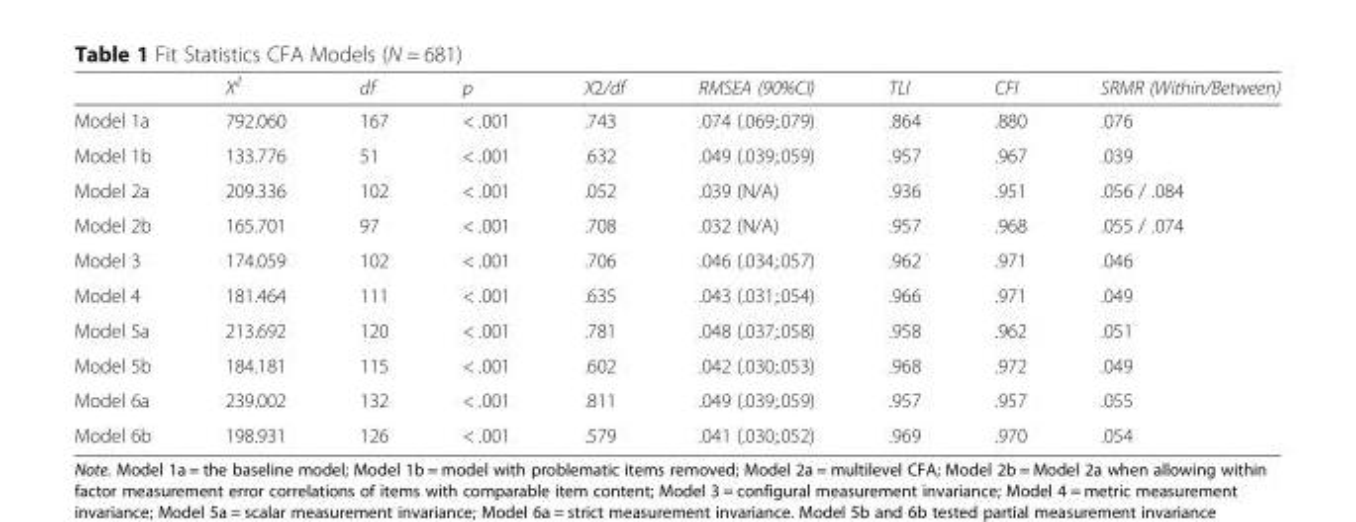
<table><thead><tr><td></td><td>X<sup>2</sup></td><td>df</td><td>p</td><td>X2/df</td><td>RMSEA (90%CI)</td><td>TLI</td><td>CFI</td><td>SRMR (Within/Between)</td></tr></thead><tbody><tr><td>Model 1a</td><td>792.060</td><td>167</td><td>&lt; .001</td><td>.743</td><td>.074 (.069;.079)</td><td>.864</td><td>.880</td><td>.076</td></tr><tr><td>Model 1b</td><td>133.776</td><td>51</td><td>&lt; .001</td><td>.632</td><td>.049 (.039;.059)</td><td>.957</td><td>.967</td><td>.039</td></tr><tr><td>Model 2a</td><td>209.336</td><td>102</td><td>&lt; .001</td><td>.052</td><td>.039 (N/A)</td><td>.936</td><td>.951</td><td>.056 / .084</td></tr><tr><td>Model 2b</td><td>165.701</td><td>97</td><td>&lt; .001</td><td>.708</td><td>.032 (N/A)</td><td>.957</td><td>.968</td><td>.055 / .074</td></tr><tr><td>Model 3</td><td>174.059</td><td>102</td><td>&lt; .001</td><td>.706</td><td>.046 (.034;.057)</td><td>.962</td><td>.971</td><td>.046</td></tr><tr><td>Model 4</td><td>181.464</td><td>111</td><td>&lt; .001</td><td>.635</td><td>.043 (.031;.054)</td><td>.966</td><td>.971</td><td>.049</td></tr><tr><td>Model 5a</td><td>213.692</td><td>120</td><td>&lt; .001</td><td>.781</td><td>.048 (.037;.058)</td><td>.958</td><td>.962</td><td>.051</td></tr><tr><td>Model 5b</td><td>184.181</td><td>115</td><td>&lt; .001</td><td>.602</td><td>.042 (.030;.053)</td><td>.968</td><td>.972</td><td>.049</td></tr><tr><td>Model 6a</td><td>239.002</td><td>132</td><td>&lt; .001</td><td>.811</td><td>.049 (.039;.059)</td><td>.957</td><td>.957</td><td>.055</td></tr><tr><td>Model 6b</td><td>198.931</td><td>126</td><td>&lt; .001</td><td>.579</td><td>.041 (.030;.052)</td><td>.969</td><td>.970</td><td>.054</td></tr></tbody></table>